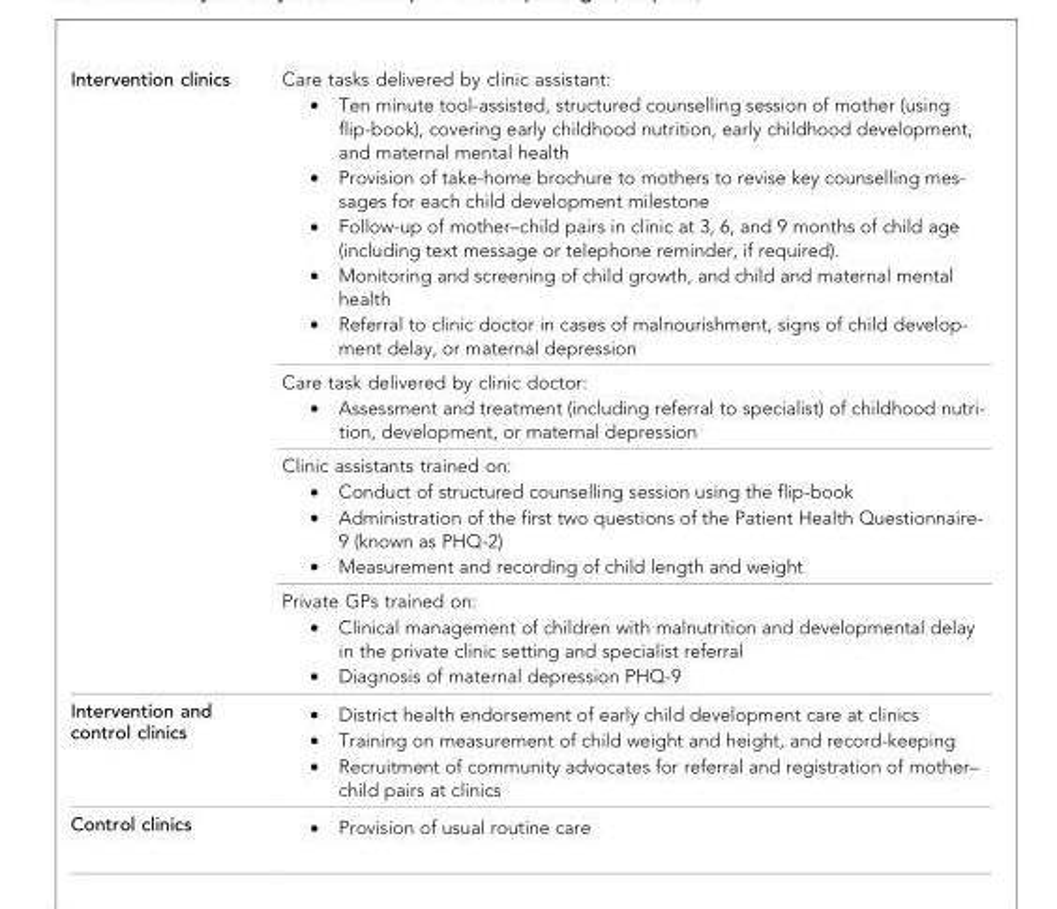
<table><tbody><tr><td rowspan="4">Intervention clinics</td><td>Care tasks delivered by clinic assistant: . Ten minute tool-assisted, structured counselling session of mother (using flip-book), covering early childhood nutrition, early childhood development, and maternal mental health . Provision of take-home brochure to mothers to revise key counselling mes- sages for each child development milestone . Follow-up of mother–child pairs in clinic at 3, 6, and 9 months of child age (including text message or telephone reminder, if required). . Monitoring and screening of child growth, and child and maternal mental health . Referral to clinic doctor in cases of malnourishment, signs of child develop- ment delay, or maternal depression</td></tr><tr><td>Care task delivered by clinic doctor: . Assessment and treatment (including referral to specialist) of childhood nutri- tion, development, or maternal depression</td></tr><tr><td>Clinic assistants trained on: . Conduct of structured counselling session using the flip-book . Administration of the first two questions of the Patient Health Questionnaire- 9 (known as PHQ-2) . Measurement and recording of child length and weight</td></tr><tr><td>Private GPs trained on: . Clinical management of children with malnutrition and developmental delay in the private clinic setting and specialist referral . Diagnosis of maternal depression PHQ-9</td></tr><tr><td>Intervention and control clinics</td><td>. District health endorsement of early child development care at clinics . Training on measurement of child weight and height, and record-keeping . Recruitment of community advocates for referral and registration of mother– child pairs at clinics</td></tr><tr><td>Control clinics</td><td>. Provision of usual routine care</td></tr></tbody></table>